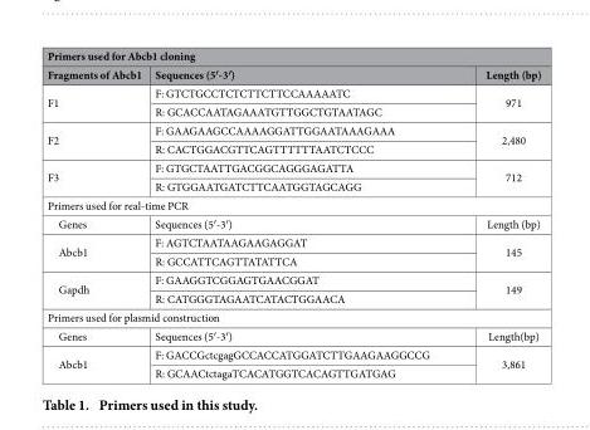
<table><thead><tr><td colspan="3">Primers used for Abcb1 cloning</td></tr><tr><td>Fragments of Abcb1</td><td>Sequences (5′-3′)</td><td>Length (bp)</td></tr></thead><tbody><tr><td rowspan="2">F1</td><td>F: GTCTGCCTCTCTTCTTCCAAAAATC</td><td rowspan="2">971</td></tr><tr><td>R: GCACCAATAGAAATGTTGGCTGTAATAGC</td></tr><tr><td rowspan="2">F2</td><td>F: GAAGAAGCCAAAAGGATTGGAATAAAGAAA</td><td rowspan="2">2,480</td></tr><tr><td>R: CACTGGACGTTCAGTTTTTTAATCTCCC</td></tr><tr><td rowspan="2">F3</td><td>F: GTGCTAATTGACGGCAGGGAGATTA</td><td rowspan="2">712</td></tr><tr><td>R: GTGGAATGATCTTCAATGGTAGCAGG</td></tr><tr><td colspan="3">Primers used for real-time PCR</td></tr><tr><td>Genes</td><td>Sequences (5′ -3′ )</td><td>Length (bp)</td></tr><tr><td rowspan="2">Abcb1</td><td>F: AGTCTAATAAGAAGAGGAT</td><td rowspan="2">145</td></tr><tr><td>R: GCCATTCAGTTATATTCA</td></tr><tr><td rowspan="2">Gapdh</td><td>F: GAAGGTCGGAGTGAACGGAT</td><td rowspan="2">149</td></tr><tr><td>R: CATGGGTAGAATCATACTGGAACA</td></tr><tr><td colspan="3">Primers used for plasmid construction</td></tr><tr><td>Genes</td><td>Sequences (5′ -3′ )</td><td>Length(bp)</td></tr><tr><td rowspan="2">Abcb1</td><td>F: GACCGctcgagGCCACCATGGATCTTGAAGAAGGCCG</td><td rowspan="2">3,861</td></tr><tr><td>R: GCAACtctagaTCACATGGTCACAGTTGATGAG</td></tr></tbody></table>